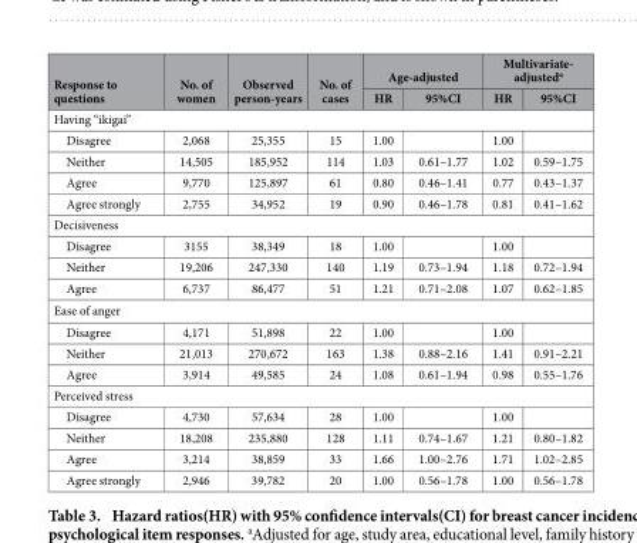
<table><thead><tr><td rowspan="2">Response to questions</td><td rowspan="2">No. of women</td><td rowspan="2">Observed person-years</td><td rowspan="2">No. of cases</td><td colspan="2">Age-adjusted</td><td colspan="2">Multivariate- adjusted<sup>a</sup></td></tr><tr><td>HR</td><td>95%CI</td><td>HR</td><td>95%CI</td></tr></thead><tbody><tr><td colspan="8">Having “ikigai”</td></tr><tr><td>Disagree</td><td>2,068</td><td>25,355</td><td>15</td><td>1.00</td><td></td><td>1.00</td><td></td></tr><tr><td>Neither</td><td>14,505</td><td>185,952</td><td>114</td><td>1.03</td><td>0.61–1.77</td><td>1.02</td><td>0.59–1.75</td></tr><tr><td>Agree</td><td>9,770</td><td>125,897</td><td>61</td><td>0.80</td><td>0.46–1.41</td><td>0.77</td><td>0.43–1.37</td></tr><tr><td>Agree strongly</td><td>2,755</td><td>34,952</td><td>19</td><td>0.90</td><td>0.46–1.78</td><td>0.81</td><td>0.41–1.62</td></tr><tr><td colspan="8">Decisiveness</td></tr><tr><td>Disagree</td><td>3155</td><td>38,349</td><td>18</td><td>1.00</td><td></td><td>1.00</td><td></td></tr><tr><td>Neither</td><td>19,206</td><td>247,330</td><td>140</td><td>1.19</td><td>0.73–1.94</td><td>1.18</td><td>0.72–1.94</td></tr><tr><td>Agree</td><td>6,737</td><td>86,477</td><td>51</td><td>1.21</td><td>0.71–2.08</td><td>1.07</td><td>0.62–1.85</td></tr><tr><td colspan="8">Ease of anger</td></tr><tr><td>Disagree</td><td>4,171</td><td>51,898</td><td>22</td><td>1.00</td><td></td><td>1.00</td><td></td></tr><tr><td>Neither</td><td>21,013</td><td>270,672</td><td>163</td><td>1.38</td><td>0.88–2.16</td><td>1.41</td><td>0.91–2.21</td></tr><tr><td>Agree</td><td>3,914</td><td>49,585</td><td>24</td><td>1.08</td><td>0.61–1.94</td><td>0.98</td><td>0.55–1.76</td></tr><tr><td colspan="8">Perceived stress</td></tr><tr><td>Disagree</td><td>4,730</td><td>57,634</td><td>28</td><td>1.00</td><td></td><td>1.00</td><td></td></tr><tr><td>Neither</td><td>18,208</td><td>235,880</td><td>128</td><td>1.11</td><td>0.74–1.67</td><td>1.21</td><td>0.80–1.82</td></tr><tr><td>Agree</td><td>3,214</td><td>38,859</td><td>33</td><td>1.66</td><td>1.00–2.76</td><td>1.71</td><td>1.02–2.85</td></tr><tr><td>Agree strongly</td><td>2,946</td><td>39,782</td><td>20</td><td>1.00</td><td>0.56–1.78</td><td>1.00</td><td>0.56–1.78</td></tr></tbody></table>